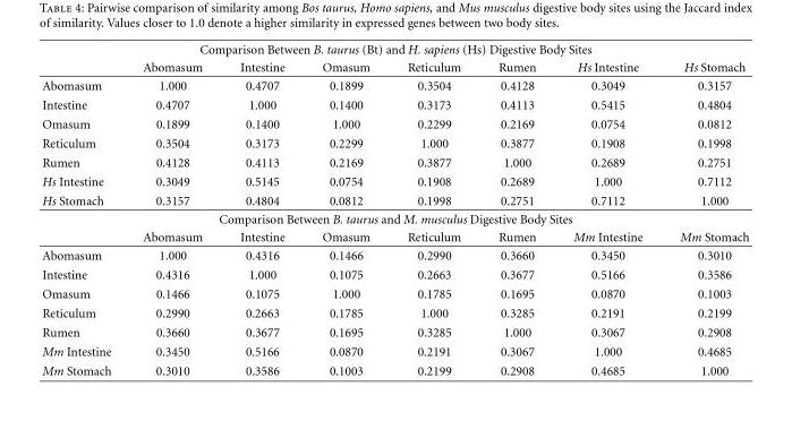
<table><thead><tr><td colspan="8">Comparison Between B. taurus (Bt) and H. sapiens (Hs) Digestive Body Sites</td></tr><tr><td></td><td>Abomasum</td><td>Intestine</td><td>Omasum</td><td>Reticulum</td><td>Rumen</td><td>Hs Intestine</td><td>Hs Stomach</td></tr></thead><tbody><tr><td>Abomasum</td><td>1.000</td><td>0.4707</td><td>0.1899</td><td>0.3504</td><td>0.4128</td><td>0.3049</td><td>0.3157</td></tr><tr><td>Intestine</td><td>0.4707</td><td>1.000</td><td>0.1400</td><td>0.3173</td><td>0.4113</td><td>0.5415</td><td>0.4804</td></tr><tr><td>Omasum</td><td>0.1899</td><td>0.1400</td><td>1.000</td><td>0.2299</td><td>0.2169</td><td>0.0754</td><td>0.0812</td></tr><tr><td>Reticulum</td><td>0.3504</td><td>0.3173</td><td>0.2299</td><td>1.000</td><td>0.3877</td><td>0.1908</td><td>0.1998</td></tr><tr><td>Rumen</td><td>0.4128</td><td>0.4113</td><td>0.2169</td><td>0.3877</td><td>1.000</td><td>0.2689</td><td>0.2751</td></tr><tr><td>Hs Intestine</td><td>0.3049</td><td>0.5145</td><td>0.0754</td><td>0.1908</td><td>0.2689</td><td>1.000</td><td>0.7112</td></tr><tr><td>Hs Stomach</td><td>0.3157</td><td>0.4804</td><td>0.0812</td><td>0.1998</td><td>0.2751</td><td>0.7112</td><td>1.000</td></tr><tr><td colspan="8">Comparison Between B. taurus and M. musculus Digestive Body Sites</td></tr><tr><td></td><td>Abomasum</td><td>Intestine</td><td>Omasum</td><td>Reticulum</td><td>Rumen</td><td>Mm Intestine</td><td>Mm Stomach</td></tr><tr><td>Abomasum</td><td>1.000</td><td>0.4316</td><td>0.1466</td><td>0.2990</td><td>0.3660</td><td>0.3450</td><td>0.3010</td></tr><tr><td>Intestine</td><td>0.4316</td><td>1.000</td><td>0.1075</td><td>0.2663</td><td>0.3677</td><td>0.5166</td><td>0.3586</td></tr><tr><td>Omasum</td><td>0.1466</td><td>0.1075</td><td>1.000</td><td>0.1785</td><td>0.1695</td><td>0.0870</td><td>0.1003</td></tr><tr><td>Reticulum</td><td>0.2990</td><td>0.2663</td><td>0.1785</td><td>1.000</td><td>0.3285</td><td>0.2191</td><td>0.2199</td></tr><tr><td>Rumen</td><td>0.3660</td><td>0.3677</td><td>0.1695</td><td>0.3285</td><td>1.000</td><td>0.3067</td><td>0.2908</td></tr><tr><td>Mm Intestine</td><td>0.3450</td><td>0.5166</td><td>0.0870</td><td>0.2191</td><td>0.3067</td><td>1.000</td><td>0.4685</td></tr><tr><td>Mm Stomach</td><td>0.3010</td><td>0.3586</td><td>0.1003</td><td>0.2199</td><td>0.2908</td><td>0.4685</td><td>1.000</td></tr></tbody></table>